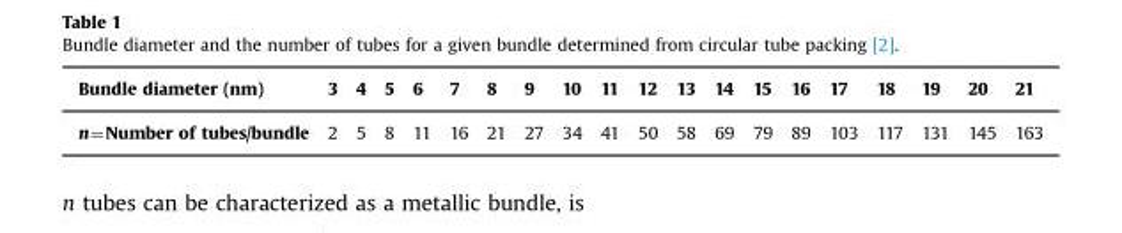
<table><thead><tr><td>Bundle diameter (nm)</td><td>3</td><td>4</td><td>5</td><td>6</td><td>7</td><td>8</td><td>9</td><td>10</td><td>11</td><td>12</td><td>13</td><td>14</td><td>15</td><td>16</td><td>17</td><td>18</td><td>19</td><td>20</td><td>21</td></tr></thead><tbody><tr><td>n=Number of tubes/bundle</td><td>2</td><td>5</td><td>8</td><td>11</td><td>16</td><td>21</td><td>27</td><td>34</td><td>41</td><td>50</td><td>58</td><td>69</td><td>79</td><td>89</td><td>103</td><td>117</td><td>131</td><td>145</td><td>163</td></tr></tbody></table>